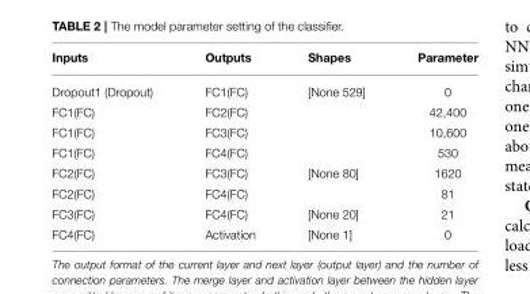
<table><thead><tr><td>Inputs</td><td>Outputs</td><td>Shapes</td><td>Parameter</td></tr></thead><tbody><tr><td>Dropout1 (Dropout)</td><td>FC1(FC)</td><td>[None 529]</td><td>0</td></tr><tr><td>FC1(FC)</td><td>FC2(FC)</td><td></td><td>42,400</td></tr><tr><td>FC1(FC)</td><td>FC3(FC)</td><td></td><td>10,600</td></tr><tr><td>FC1(FC)</td><td>FC4(FC)</td><td></td><td>530</td></tr><tr><td>FC2(FC)</td><td>FC3(FC)</td><td>[None 80]</td><td>1620</td></tr><tr><td>FC2(FC)</td><td>FC4(FC)</td><td></td><td>81</td></tr><tr><td>FC3(FC)</td><td>FC4(FC)</td><td>[None 20]</td><td>21</td></tr><tr><td>FC4(FC)</td><td>Activation</td><td>[None 1]</td><td>0</td></tr></tbody></table>